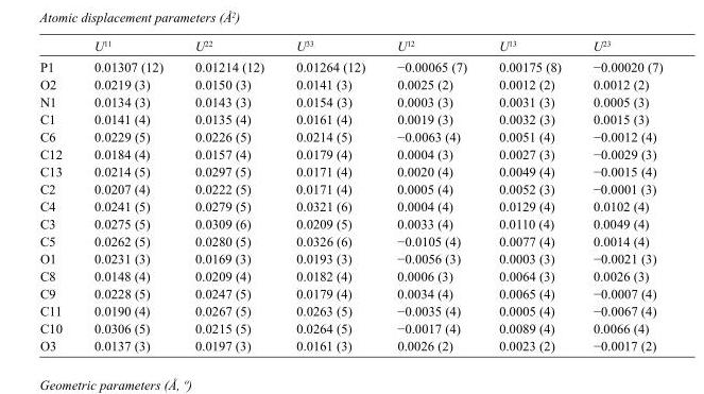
<table><thead><tr><td></td><td>U<sup>11</sup></td><td>U<sup>22</sup></td><td>U<sup>33</sup></td><td>U<sup>12</sup></td><td>U<sup>13</sup></td><td>U<sup>23</sup></td></tr></thead><tbody><tr><td>P1</td><td>0.01307 (12)</td><td>0.01214 (12)</td><td>0.01264 (12)</td><td>−0.00065 (7)</td><td>0.00175 (8)</td><td>−0.00020 (7)</td></tr><tr><td>O2</td><td>0.0219 (3)</td><td>0.0150 (3)</td><td>0.0141 (3)</td><td>0.0025 (2)</td><td>0.0012 (2)</td><td>0.0012 (2)</td></tr><tr><td>N1</td><td>0.0134 (3)</td><td>0.0143 (3)</td><td>0.0154 (3)</td><td>0.0003 (3)</td><td>0.0031 (3)</td><td>0.0005 (3)</td></tr><tr><td>C1</td><td>0.0141 (4)</td><td>0.0135 (4)</td><td>0.0161 (4)</td><td>0.0019 (3)</td><td>0.0032 (3)</td><td>0.0015 (3)</td></tr><tr><td>C6</td><td>0.0229 (5)</td><td>0.0226 (5)</td><td>0.0214 (5)</td><td>−0.0063 (4)</td><td>0.0051 (4)</td><td>−0.0012 (4)</td></tr><tr><td>C12</td><td>0.0184 (4)</td><td>0.0157 (4)</td><td>0.0179 (4)</td><td>0.0004 (3)</td><td>0.0027 (3)</td><td>−0.0029 (3)</td></tr><tr><td>C13</td><td>0.0214 (5)</td><td>0.0297 (5)</td><td>0.0171 (4)</td><td>0.0020 (4)</td><td>0.0049 (4)</td><td>−0.0015 (4)</td></tr><tr><td>C2</td><td>0.0207 (4)</td><td>0.0222 (5)</td><td>0.0171 (4)</td><td>0.0005 (4)</td><td>0.0052 (3)</td><td>−0.0001 (3)</td></tr><tr><td>C4</td><td>0.0241 (5)</td><td>0.0279 (5)</td><td>0.0321 (6)</td><td>0.0004 (4)</td><td>0.0129 (4)</td><td>0.0102 (4)</td></tr><tr><td>C3</td><td>0.0275 (5)</td><td>0.0309 (6)</td><td>0.0209 (5)</td><td>0.0033 (4)</td><td>0.0110 (4)</td><td>0.0049 (4)</td></tr><tr><td>C5</td><td>0.0262 (5)</td><td>0.0280 (5)</td><td>0.0326 (6)</td><td>−0.0105 (4)</td><td>0.0077 (4)</td><td>0.0014 (4)</td></tr><tr><td>O1</td><td>0.0231 (3)</td><td>0.0169 (3)</td><td>0.0193 (3)</td><td>−0.0056 (3)</td><td>0.0003 (3)</td><td>−0.0021 (3)</td></tr><tr><td>C8</td><td>0.0148 (4)</td><td>0.0209 (4)</td><td>0.0182 (4)</td><td>0.0006 (3)</td><td>0.0064 (3)</td><td>0.0026 (3)</td></tr><tr><td>C9</td><td>0.0228 (5)</td><td>0.0247 (5)</td><td>0.0179 (4)</td><td>0.0034 (4)</td><td>0.0065 (4)</td><td>−0.0007 (4)</td></tr><tr><td>C11</td><td>0.0190 (4)</td><td>0.0267 (5)</td><td>0.0263 (5)</td><td>−0.0035 (4)</td><td>0.0005 (4)</td><td>−0.0067 (4)</td></tr><tr><td>C10</td><td>0.0306 (5)</td><td>0.0215 (5)</td><td>0.0264 (5)</td><td>−0.0017 (4)</td><td>0.0089 (4)</td><td>0.0066 (4)</td></tr><tr><td>O3</td><td>0.0137 (3)</td><td>0.0197 (3)</td><td>0.0161 (3)</td><td>0.0026 (2)</td><td>0.0023 (2)</td><td>−0.0017 (2)</td></tr></tbody></table>